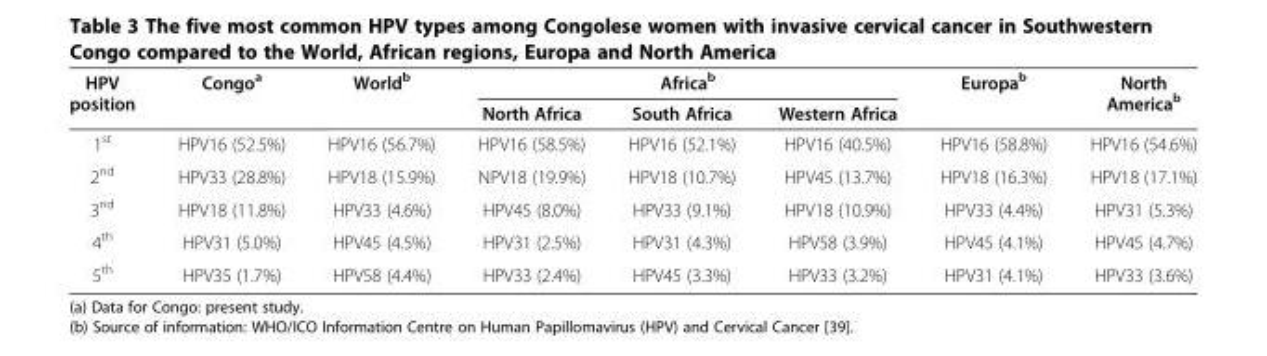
<table><thead><tr><td rowspan="2">HPV position</td><td rowspan="2">Congo<sup>a</sup></td><td rowspan="2">World<sup>b</sup></td><td colspan="3">Africa<sup>b</sup></td><td rowspan="2">Europa<sup>b</sup></td><td rowspan="2">North America<sup>b</sup></td></tr><tr><td>North Africa</td><td>South Africa</td><td>Western Africa</td></tr></thead><tbody><tr><td>1<sup>st</sup></td><td>HPV16 (52.5%)</td><td>HPV16 (56.7%)</td><td>HPV16 (58.5%)</td><td>HPV16 (52.1%)</td><td>HPV16 (40.5%)</td><td>HPV16 (58.8%)</td><td>HPV16 (54.6%)</td></tr><tr><td>2<sup>nd</sup></td><td>HPV33 (28.8%)</td><td>HPV18 (15.9%)</td><td>NPV18 (19.9%)</td><td>HPV18 (10.7%)</td><td>HPV45 (13.7%)</td><td>HPV18 (16.3%)</td><td>HPV18 (17.1%)</td></tr><tr><td>3<sup>nd</sup></td><td>HPV18 (11.8%)</td><td>HPV33 (4.6%)</td><td>HPV45 (8.0%)</td><td>HPV33 (9.1%)</td><td>HPV18 (10.9%)</td><td>HPV33 (4.4%)</td><td>HPV31 (5.3%)</td></tr><tr><td>4<sup>th</sup></td><td>HPV31 (5.0%)</td><td>HPV45 (4.5%)</td><td>HPV31 (2.5%)</td><td>HPV31 (4.3%)</td><td>HPV58 (3.9%)</td><td>HPV45 (4.1%)</td><td>HPV45 (4.7%)</td></tr><tr><td>5<sup>th</sup></td><td>HPV35 (1.7%)</td><td>HPV58 (4.4%)</td><td>HPV33 (2.4%)</td><td>HPV45 (3.3%)</td><td>HPV33 (3.2%)</td><td>HPV31 (4.1%)</td><td>HPV33 (3.6%)</td></tr></tbody></table>